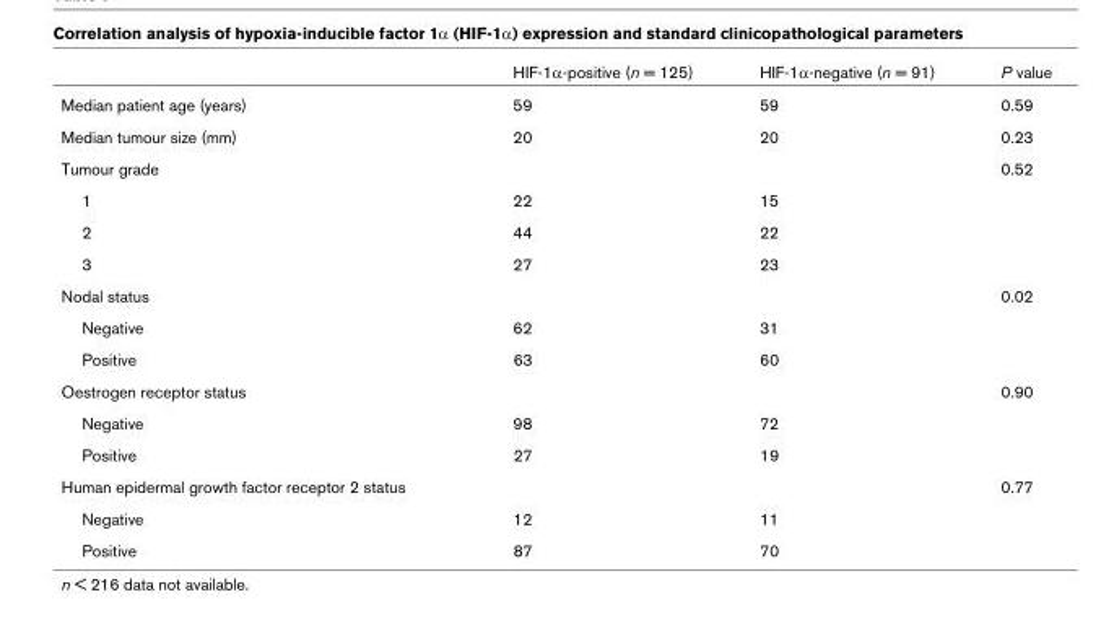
<table><thead><tr><td></td><td>HIF-1α-positive (n = 125)</td><td>HIF-1α-negative (n = 91)</td><td>P value</td></tr></thead><tbody><tr><td>Median patient age (years)</td><td>59</td><td>59</td><td>0.59</td></tr><tr><td>Median tumour size (mm)</td><td>20</td><td>20</td><td>0.23</td></tr><tr><td>Tumour grade</td><td></td><td></td><td>0.52</td></tr><tr><td>1</td><td>22</td><td>15</td><td></td></tr><tr><td>2</td><td>44</td><td>22</td><td></td></tr><tr><td>3</td><td>27</td><td>23</td><td></td></tr><tr><td>Nodal status</td><td></td><td></td><td>0.02</td></tr><tr><td>Negative</td><td>62</td><td>31</td><td></td></tr><tr><td>Positive</td><td>63</td><td>60</td><td></td></tr><tr><td>Oestrogen receptor status</td><td></td><td></td><td>0.90</td></tr><tr><td>Negative</td><td>98</td><td>72</td><td></td></tr><tr><td>Positive</td><td>27</td><td>19</td><td></td></tr><tr><td>Human epidermal growth factor receptor 2 status</td><td></td><td></td><td>0.77</td></tr><tr><td>Negative</td><td>12</td><td>11</td><td></td></tr><tr><td>Positive</td><td>87</td><td>70</td><td></td></tr></tbody></table>